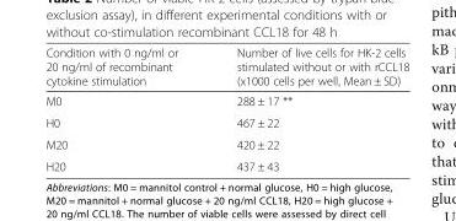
<table><thead><tr><td>Condition with 0 ng/ml or 20 ng/ml of recombinant cytokine stimulation</td><td>Number of live cells for HK-2 cells stimulated without or with rCCL18 (x1000 cells per well, Mean ± SD)</td></tr></thead><tbody><tr><td>M0</td><td>288 ± 17 **</td></tr><tr><td>H0</td><td>467 ± 22</td></tr><tr><td>M20</td><td>420 ± 22</td></tr><tr><td>H20</td><td>437 ± 43</td></tr></tbody></table>